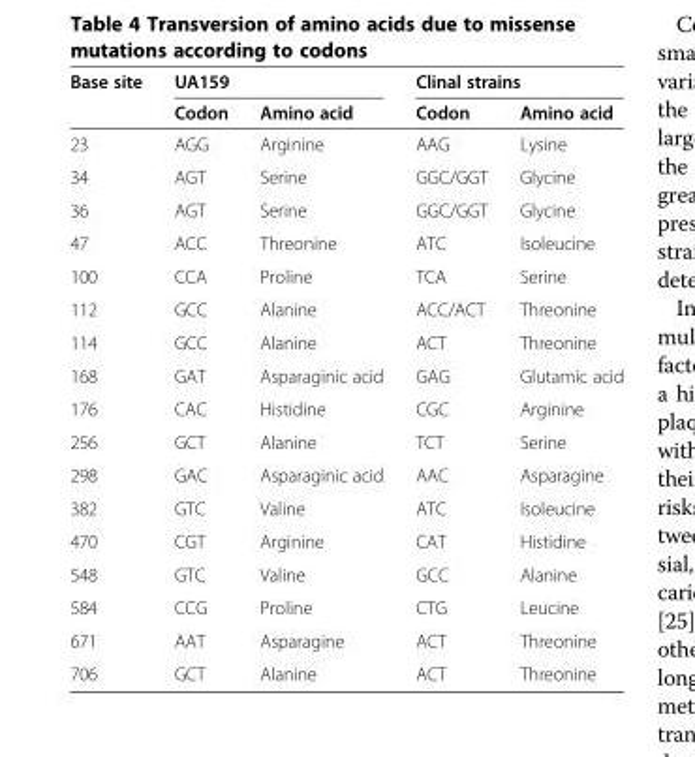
<table><thead><tr><td rowspan="2">Base site</td><td colspan="2">UA159</td><td colspan="2">Clinal strains</td></tr><tr><td>Codon</td><td>Amino acid</td><td>Codon</td><td>Amino acid</td></tr></thead><tbody><tr><td>23</td><td>AGG</td><td>Arginine</td><td>AAG</td><td>Lysine</td></tr><tr><td>34</td><td>AGT</td><td>Serine</td><td>GGC/GGT</td><td>Glycine</td></tr><tr><td>36</td><td>AGT</td><td>Serine</td><td>GGC/GGT</td><td>Glycine</td></tr><tr><td>47</td><td>ACC</td><td>Threonine</td><td>ATC</td><td>Isoleucine</td></tr><tr><td>100</td><td>CCA</td><td>Proline</td><td>TCA</td><td>Serine</td></tr><tr><td>112</td><td>GCC</td><td>Alanine</td><td>ACC/ACT</td><td>Threonine</td></tr><tr><td>114</td><td>GCC</td><td>Alanine</td><td>ACT</td><td>Threonine</td></tr><tr><td>168</td><td>GAT</td><td>Asparaginic acid</td><td>GAG</td><td>Glutamic acid</td></tr><tr><td>176</td><td>CAC</td><td>Histidine</td><td>CGC</td><td>Arginine</td></tr><tr><td>256</td><td>GCT</td><td>Alanine</td><td>TCT</td><td>Serine</td></tr><tr><td>298</td><td>GAC</td><td>Asparaginic acid</td><td>AAC</td><td>Asparagine</td></tr><tr><td>382</td><td>GTC</td><td>Valine</td><td>ATC</td><td>Isoleucine</td></tr><tr><td>470</td><td>CGT</td><td>Arginine</td><td>CAT</td><td>Histidine</td></tr><tr><td>548</td><td>GTC</td><td>Valine</td><td>GCC</td><td>Alanine</td></tr><tr><td>584</td><td>CCG</td><td>Proline</td><td>CTG</td><td>Leucine</td></tr><tr><td>671</td><td>AAT</td><td>Asparagine</td><td>ACT</td><td>Threonine</td></tr><tr><td>706</td><td>GCT</td><td>Alanine</td><td>ACT</td><td>Threonine</td></tr></tbody></table>